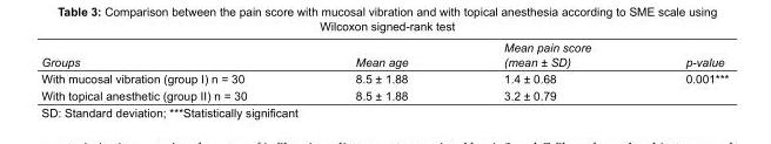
<table><tbody><tr><td>Groups</td><td>Mean age</td><td>Mean pain score (mean ± SD)</td><td>p-value</td></tr><tr><td>With mucosal vibration (group I) n = 30</td><td>8.5 ± 1.88</td><td>1.4 ± 0.68</td><td>0.001***</td></tr><tr><td>With topical anesthetic (group II) n = 30</td><td>8.5 ± 1.88</td><td>3.2 ± 0.79</td><td></td></tr></tbody></table>